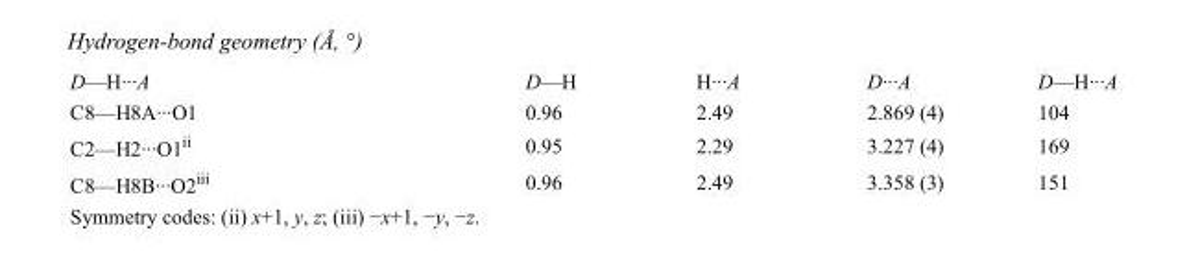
<table><tbody><tr><td>D—H···A</td><td>D—H</td><td>H···A</td><td>D···A</td><td>D—H···A</td></tr><tr><td>C8—H8A···O1</td><td>0.96</td><td>2.49</td><td>2.869 (4)</td><td>104</td></tr><tr><td>C2—H2···O1<sup>ii</sup></td><td>0.95</td><td>2.29</td><td>3.227 (4)</td><td>169</td></tr><tr><td>C8—H8B···O2<sup>iii</sup></td><td>0.96</td><td>2.49</td><td>3.358 (3)</td><td>151</td></tr></tbody></table>